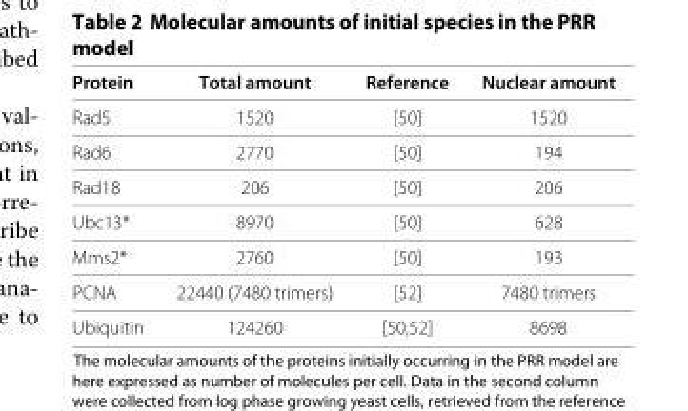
<table><thead><tr><td>Protein</td><td>Total amount</td><td>Reference</td><td>Nuclear amount</td></tr></thead><tbody><tr><td>Rad5</td><td>1520</td><td>[50]</td><td>1520</td></tr><tr><td>Rad6</td><td>2770</td><td>[50]</td><td>194</td></tr><tr><td>Rad18</td><td>206</td><td>[50]</td><td>206</td></tr><tr><td>Ubc13*</td><td>8970</td><td>[50]</td><td>628</td></tr><tr><td>Mms2*</td><td>2760</td><td>[50]</td><td>193</td></tr><tr><td>PCNA</td><td>22440 (7480 trimers)</td><td>[52]</td><td>7480 trimers</td></tr><tr><td>Ubiquitin</td><td>124260</td><td>[50,52]</td><td>8698</td></tr></tbody></table>